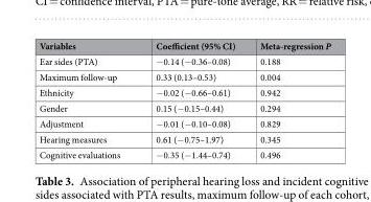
<table><thead><tr><td>Variables</td><td>Coefficient (95% CI)</td><td>Meta-regression P</td></tr></thead><tbody><tr><td>Ear sides (PTA)</td><td>−0.14 (−0.36–0.08)</td><td>0.188</td></tr><tr><td>Maximum follow-up</td><td>0.33 (0.13–0.53)</td><td>0.004</td></tr><tr><td>Ethnicity</td><td>−0.02 (−0.66–0.61)</td><td>0.942</td></tr><tr><td>Gender</td><td>0.15 (−0.15–0.44)</td><td>0.294</td></tr><tr><td>Adjustment</td><td>−0.01 (−0.10–0.08)</td><td>0.829</td></tr><tr><td>Hearing measures</td><td>0.61 (−0.75–1.97)</td><td>0.345</td></tr><tr><td>Cognitive evaluations</td><td>−0.35 (−1.44–0.74)</td><td>0.496</td></tr></tbody></table>